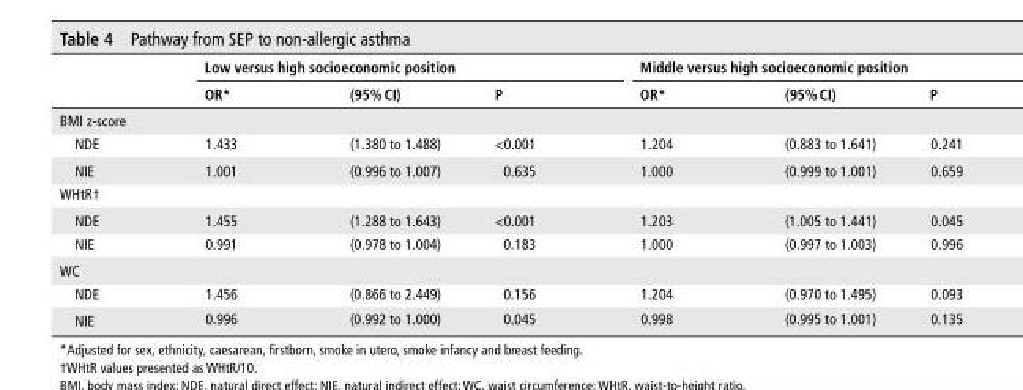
<table><thead><tr><td rowspan="2"></td><td colspan="3">low versus high socioeconomic position</td><td colspan="3">Middle versus high socioeconomic position</td></tr><tr><td>or*</td><td>(95% CI)</td><td>P</td><td>or*</td><td>(95% CI)</td><td>P</td></tr></thead><tbody><tr><td colspan="7">BMI z-score</td></tr><tr><td>NDE</td><td>1.433</td><td>(1.380 to 1.488)</td><td>&lt;0.001</td><td>1.204</td><td>(0.883 to 1.641)</td><td>0.241</td></tr><tr><td>NIE</td><td>1.001</td><td>(0.996 to 1.007)</td><td>0.635</td><td>1.000</td><td>(0.999 to 1.001)</td><td>0.659</td></tr><tr><td colspan="7">WHtR†</td></tr><tr><td>NDE</td><td>1.455</td><td>(1.288 to 1.643)</td><td>&lt;0.001</td><td>1.203</td><td>(1.005 to 1.441)</td><td>0.045</td></tr><tr><td>NIE</td><td>0.991</td><td>(0.978 to 1.004)</td><td>0.183</td><td>1.000</td><td>(0.997 to 1.003)</td><td>0.996</td></tr><tr><td colspan="7">WC</td></tr><tr><td>NDE</td><td>1.456</td><td>(0.866 to 2.449)</td><td>0.156</td><td>1.204</td><td>(0.970 to 1.495)</td><td>0.093</td></tr><tr><td>NIE</td><td>0.996</td><td>(0.992 to 1.000)</td><td>0.045</td><td>0.998</td><td>(0.995 to 1.001)</td><td>0.135</td></tr></tbody></table>